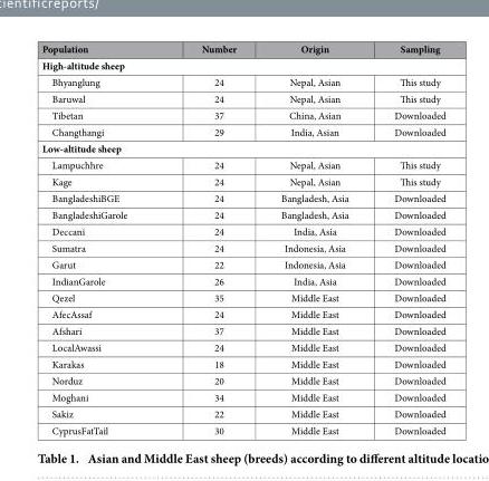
<table><thead><tr><td>Population</td><td>Number</td><td>Origin</td><td>Sampling</td></tr></thead><tbody><tr><td colspan="4">High-altitude sheep</td></tr><tr><td>Bhyanglung</td><td>24</td><td>Nepal, Asian</td><td>This study</td></tr><tr><td>Baruwal</td><td>24</td><td>Nepal, Asian</td><td>This study</td></tr><tr><td>Tibetan</td><td>37</td><td>China, Asian</td><td>Downloaded</td></tr><tr><td>Changthangi</td><td>29</td><td>India, Asian</td><td>Downloaded</td></tr><tr><td colspan="4">Low-altitude sheep</td></tr><tr><td>Lampuchhre</td><td>24</td><td>Nepal, Asian</td><td>This study</td></tr><tr><td>Kage</td><td>24</td><td>Nepal, Asian</td><td>This study</td></tr><tr><td>BangladeshiBGE</td><td>24</td><td>Bangladesh, Asia</td><td>Downloaded</td></tr><tr><td>BangladeshiGarole</td><td>24</td><td>Bangladesh, Asia</td><td>Downloaded</td></tr><tr><td>Deccani</td><td>24</td><td>India, Asia</td><td>Downloaded</td></tr><tr><td>Sumatra</td><td>24</td><td>Indonesia, Asia</td><td>Downloaded</td></tr><tr><td>Garut</td><td>22</td><td>Indonesia, Asia</td><td>Downloaded</td></tr><tr><td>IndianGarole</td><td>26</td><td>India, Asia</td><td>Downloaded</td></tr><tr><td>Qezel</td><td>35</td><td>Middle East</td><td>Downloaded</td></tr><tr><td>AfecAssaf</td><td>24</td><td>Middle East</td><td>Downloaded</td></tr><tr><td>Afshari</td><td>37</td><td>Middle East</td><td>Downloaded</td></tr><tr><td>LocalAwassi</td><td>24</td><td>Middle East</td><td>Downloaded</td></tr><tr><td>Karakas</td><td>18</td><td>Middle East</td><td>Downloaded</td></tr><tr><td>Norduz</td><td>20</td><td>Middle East</td><td>Downloaded</td></tr><tr><td>Moghani</td><td>34</td><td>Middle East</td><td>Downloaded</td></tr><tr><td>Sakiz</td><td>22</td><td>Middle East</td><td>Downloaded</td></tr><tr><td>CyprusFatTail</td><td>30</td><td>Middle East</td><td>Downloaded</td></tr></tbody></table>